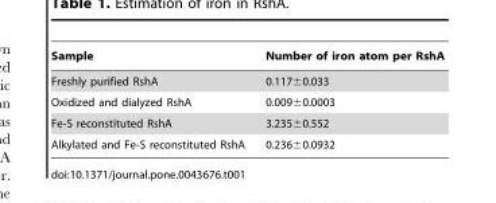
<table><thead><tr><td>Sample</td><td>Number of iron atom per RshA</td></tr></thead><tbody><tr><td>Freshly purified RshA</td><td>0.117±0.033</td></tr><tr><td>Oxidized and dialyzed RshA</td><td>0.009±0.0003</td></tr><tr><td>Fe-S reconstituted RshA</td><td>3.235±0.552</td></tr><tr><td>Alkylated and Fe-S reconstituted RshA</td><td>0.236±0.0932</td></tr></tbody></table>